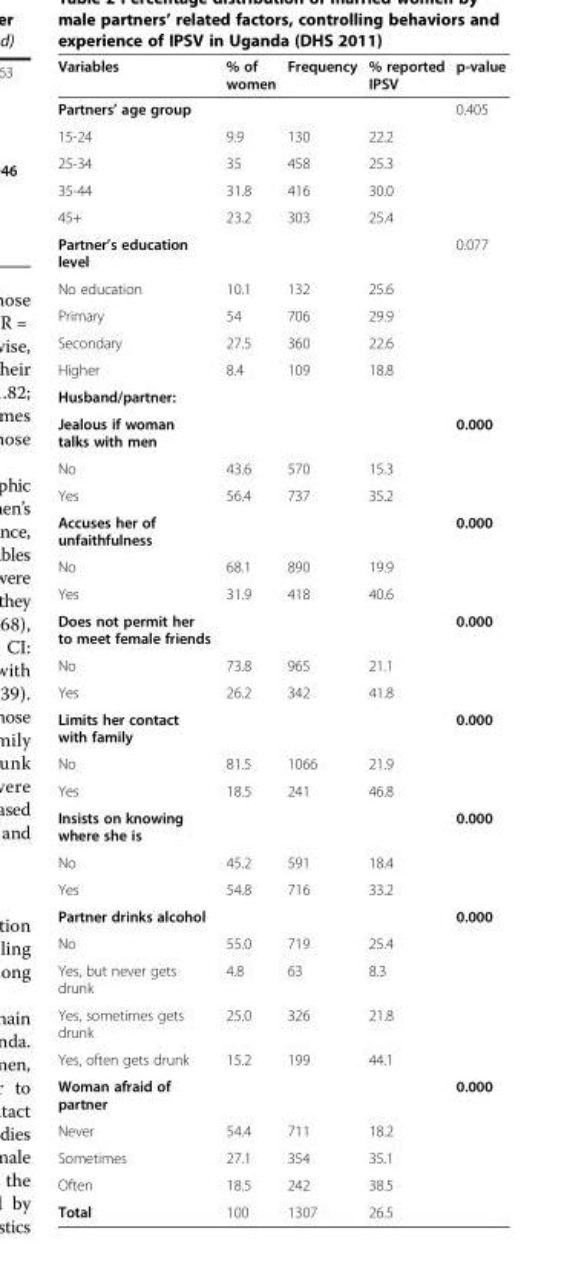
<table><thead><tr><td>Variables</td><td>% of women</td><td>Frequency</td><td>% reported IPSV</td><td>p-value</td></tr></thead><tbody><tr><td>Partners’ age group</td><td></td><td></td><td></td><td>0.405</td></tr><tr><td>15-24</td><td>9.9</td><td>130</td><td>22.2</td><td></td></tr><tr><td>25-34</td><td>35</td><td>458</td><td>25.3</td><td></td></tr><tr><td>35-44</td><td>31.8</td><td>416</td><td>30.0</td><td></td></tr><tr><td>45+</td><td>23.2</td><td>303</td><td>25.4</td><td></td></tr><tr><td>Partner’s education level</td><td></td><td></td><td></td><td>0.077</td></tr><tr><td>No education</td><td>10.1</td><td>132</td><td>25.6</td><td></td></tr><tr><td>Primary</td><td>54</td><td>706</td><td>29.9</td><td></td></tr><tr><td>Secondary</td><td>27.5</td><td>360</td><td>22.6</td><td></td></tr><tr><td>Higher</td><td>8.4</td><td>109</td><td>18.8</td><td></td></tr><tr><td colspan="5">Husband/partner:</td></tr><tr><td>Jealous if woman talks with men</td><td></td><td></td><td></td><td>0.000</td></tr><tr><td>No</td><td>43.6</td><td>570</td><td>15.3</td><td></td></tr><tr><td>Yes</td><td>56.4</td><td>737</td><td>35.2</td><td></td></tr><tr><td>Accuses her of unfaithfulness</td><td></td><td></td><td></td><td>0.000</td></tr><tr><td>No</td><td>68.1</td><td>890</td><td>19.9</td><td></td></tr><tr><td>Yes</td><td>31.9</td><td>418</td><td>40.6</td><td></td></tr><tr><td>Does not permit her to meet female friends</td><td></td><td></td><td></td><td>0.000</td></tr><tr><td>No</td><td>73.8</td><td>965</td><td>21.1</td><td></td></tr><tr><td>Yes</td><td>26.2</td><td>342</td><td>41.8</td><td></td></tr><tr><td>Limits her contact with family</td><td></td><td></td><td></td><td>0.000</td></tr><tr><td>No</td><td>81.5</td><td>1066</td><td>21.9</td><td></td></tr><tr><td>Yes</td><td>18.5</td><td>241</td><td>46.8</td><td></td></tr><tr><td>Insists on knowing where she is</td><td></td><td></td><td></td><td>0.000</td></tr><tr><td>No</td><td>45.2</td><td>591</td><td>18.4</td><td></td></tr><tr><td>Yes</td><td>54.8</td><td>716</td><td>33.2</td><td></td></tr><tr><td>Partner drinks alcohol</td><td></td><td></td><td></td><td>0.000</td></tr><tr><td>No</td><td>55.0</td><td>719</td><td>25.4</td><td></td></tr><tr><td>Yes, but never gets drunk</td><td>4.8</td><td>63</td><td>8.3</td><td></td></tr><tr><td>Yes, sometimes gets drunk</td><td>25.0</td><td>326</td><td>21.8</td><td></td></tr><tr><td>Yes, often gets drunk</td><td>15.2</td><td>199</td><td>44.1</td><td></td></tr><tr><td>Woman afraid of partner</td><td></td><td></td><td></td><td>0.000</td></tr><tr><td>Never</td><td>54.4</td><td>711</td><td>18.2</td><td></td></tr><tr><td>Sometimes</td><td>27.1</td><td>354</td><td>35.1</td><td></td></tr><tr><td>Often</td><td>18.5</td><td>242</td><td>38.5</td><td></td></tr><tr><td>Total</td><td>100</td><td>1307</td><td>26.5</td><td></td></tr></tbody></table>